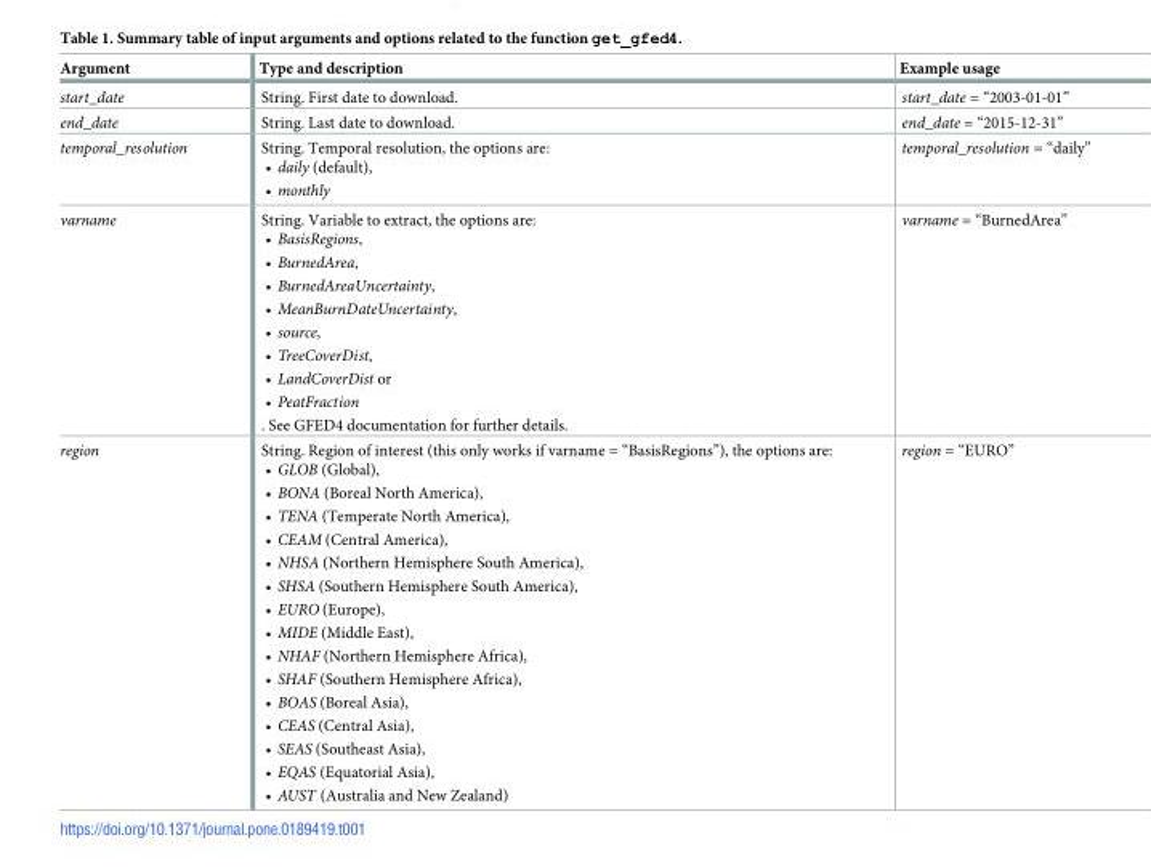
<table><thead><tr><td>Argument</td><td>Type and description</td><td>Example usage</td></tr></thead><tbody><tr><td>start_date</td><td>String. First date to download.</td><td>start_date = “2003-01-01”</td></tr><tr><td>end_date</td><td>String. Last date to download.</td><td>end_date = “2015-12-31”</td></tr><tr><td>temporal_resolution</td><td>String. Temporal resolution, the options are: • daily (default), • monthly</td><td>temporal_resolution = “daily”</td></tr><tr><td>varname</td><td>String. Variable to extract, the options are: • BasisRegions, • BurnedArea, • BurnedAreaUncertainty, • MeanBurnDateUncertainty, • source, • TreeCoverDist, • LandCoverDist or • PeatFraction . See GFED4 documentation for further details.</td><td>varname = “BurnedArea”</td></tr><tr><td>region</td><td>String. Region of interest (this only works if varname = “BasisRegions”), the options are: • GLOB (Global), • BONA (Boreal North America), • TENA (Temperate North America), • CEAM (Central America), • NHSA (Northern Hemisphere South America), • SHSA (Southern Hemisphere South America), • EURO (Europe), • MIDE (Middle East), • NHAF (Northern Hemisphere Africa), • SHAF (Southern Hemisphere Africa), • BOAS (Boreal Asia), • CEAS (Central Asia), • SEAS (Southeast Asia), • EQAS (Equatorial Asia), • AUST (Australia and New Zealand)</td><td>region = “EURO”</td></tr></tbody></table>